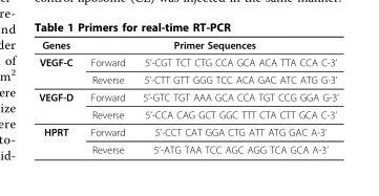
<table><thead><tr><td rowspan="2">Genes VEGF-C</td><td colspan="2">Primer Sequences</td></tr><tr><td>Forward</td><td>5’-CGT TCT CTG CCA GCA ACA TTA CCA C-3’</td></tr></thead><tbody><tr><td></td><td>Reverse</td><td>5’-CTT GTT GGG TCC ACA GAC ATC ATG G-3’</td></tr><tr><td rowspan="2">VEGF-D</td><td>Forward</td><td>5’-GTC TGT AAA GCA CCA TGT CCG GGA G-3’</td></tr><tr><td>Reverse</td><td>5’-CCA CAG GCT GGC TTT CTA CTT GCA C-3’</td></tr><tr><td rowspan="2">HPRT</td><td>Forward</td><td>5’-CCT CAT GGA CTG ATT ATG GAC A-3’</td></tr><tr><td>Reverse</td><td>5’-ATG TAA TCC AGC AGG TCA GCA A-3’</td></tr></tbody></table>